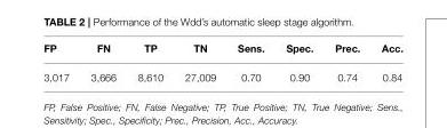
<table><thead><tr><td>FP</td><td>FN</td><td>TP</td><td>TN</td><td>Sens.</td><td>Spec.</td><td>Prec.</td><td>Acc.</td></tr></thead><tbody><tr><td>3,017</td><td>3,666</td><td>8,610</td><td>27,009</td><td>0.70</td><td>0.90</td><td>0.74</td><td>0.84</td></tr></tbody></table>